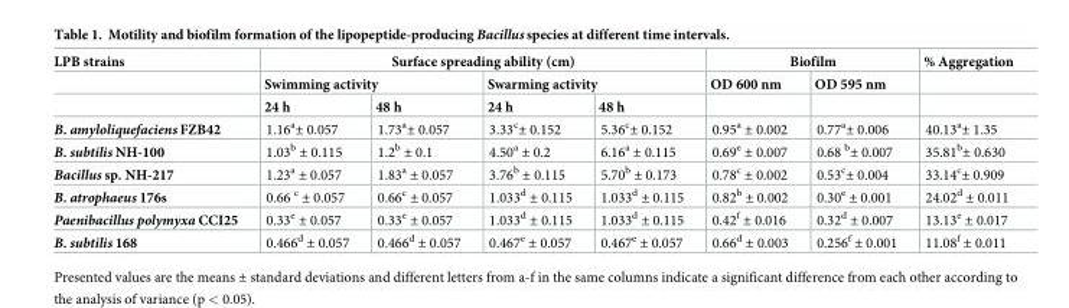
<table><thead><tr><td rowspan="3">LPB strains</td><td colspan="4">Surface spreading ability (cm)</td><td colspan="2">Biofilm</td><td rowspan="3">% Aggregation</td></tr><tr><td colspan="2">Swimming activity</td><td colspan="2">Swarming activity</td><td rowspan="2">OD 600 nm</td><td rowspan="2">OD 595 nm</td></tr><tr><td>24 h</td><td>48 h</td><td>24 h</td><td>48 h</td></tr></thead><tbody><tr><td>B. amyloliquefaciens FZB42</td><td>1.16<sup>a</sup>± 0.057</td><td>1.73<sup>a</sup>± 0.057</td><td>3.33<sup>c</sup>± 0.152</td><td>5.36<sup>c</sup>± 0.152</td><td>0.95<sup>a</sup> ± 0.002</td><td>0.77<sup>a</sup>± 0.006</td><td>40.13<sup>a</sup>± 1.35</td></tr><tr><td>B. subtilis NH-100</td><td>1.03<sup>b</sup> ± 0.115</td><td>1.2<sup>b</sup> ± 0.1</td><td>4.50<sup>a</sup> ± 0.2</td><td>6.16<sup>a</sup> ± 0.115</td><td>0.69<sup>e</sup> ± 0.007</td><td>0.68 <sup>b</sup>± 0.007</td><td>35.81<sup>b</sup>± 0.630</td></tr><tr><td>Bacillus sp. NH-217</td><td>1.23<sup>a</sup> ± 0.057</td><td>1.83<sup>a</sup> ± 0.057</td><td>3.76<sup>b</sup> ± 0.115</td><td>5.70<sup>b</sup> ± 0.173</td><td>0.78<sup>c</sup> ± 0.002</td><td>0.53<sup>c</sup>± 0.004</td><td>33.14<sup>c</sup>± 0.909</td></tr><tr><td>B. atrophaeus 176s</td><td>0.66 <sup>c</sup> ± 0.057</td><td>0.66<sup>c</sup> ± 0.057</td><td>1.033<sup>d</sup> ± 0.115</td><td>1.033<sup>d</sup> ± 0.115</td><td>0.82<sup>b</sup> ± 0.002</td><td>0.30<sup>e</sup> ± 0.001</td><td>24.02<sup>d</sup> ± 0.011</td></tr><tr><td>Paenibacillus polymyxa CCI25</td><td>0.33<sup>e</sup> ± 0.057</td><td>0.33<sup>e</sup> ± 0.057</td><td>1.033<sup>d</sup> ± 0.115</td><td>1.033<sup>d</sup> ± 0.115</td><td>0.42<sup>f</sup> ± 0.016</td><td>0.32<sup>d</sup> ± 0.007</td><td>13.13<sup>e</sup> ± 0.017</td></tr><tr><td>B. subtilis 168</td><td>0.466<sup>d</sup> ± 0.057</td><td>0.466<sup>d</sup> ± 0.057</td><td>0.467<sup>e</sup> ± 0.057</td><td>0.467<sup>e</sup> ± 0.057</td><td>0.66<sup>d</sup> ± 0.003</td><td>0.256<sup>f</sup> ± 0.001</td><td>11.08<sup>f</sup> ± 0.011</td></tr></tbody></table>